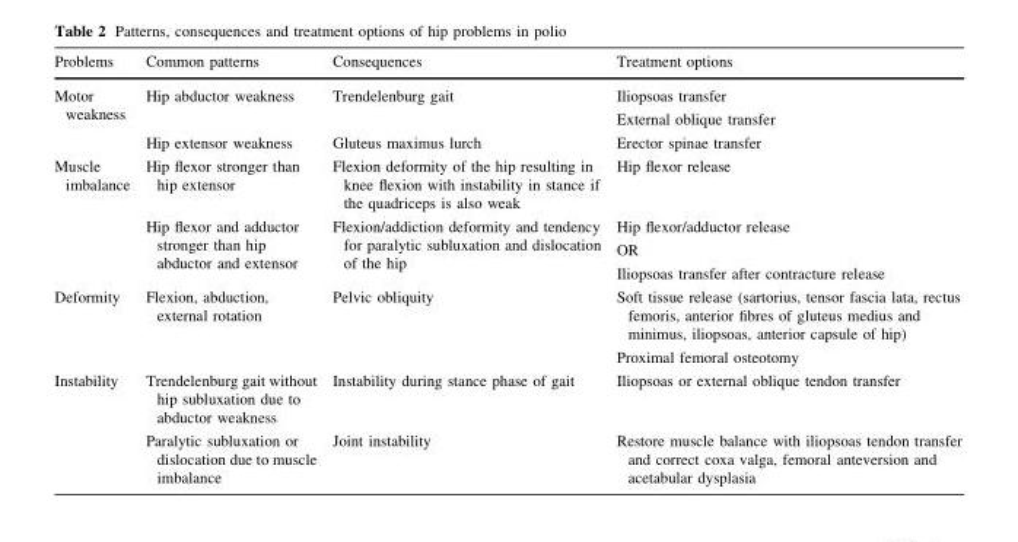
<table><thead><tr><td>Problems</td><td>Common patterns</td><td>Consequences</td><td>Treatment options</td></tr></thead><tbody><tr><td rowspan="2">Motor weakness</td><td>Hip abductor weakness</td><td>Trendelenburg gait</td><td>Iliopsoas transfer External oblique transfer</td></tr><tr><td>Hip extensor weakness</td><td>Gluteus maximus lurch</td><td>Erector spinae transfer</td></tr><tr><td rowspan="2">Muscle imbalance</td><td>Hip flexor stronger than hip extensor</td><td>Flexion deformity of the hip resulting in knee flexion with instability in stance if the quadriceps is also weak</td><td>Hip flexor release</td></tr><tr><td>Hip flexor and adductor stronger than hip abductor and extensor</td><td>Flexion/addiction deformity and tendency for paralytic subluxation and dislocation of the hip</td><td>Hip flexor/adductor release OR Iliopsoas transfer after contracture release</td></tr><tr><td>Deformity</td><td>Flexion, abduction, external rotation</td><td>Pelvic obliquity</td><td>Soft tissue release (sartorius, tensor fascia lata, rectus femoris, anterior fibres of gluteus medius and minimus, iliopsoas, anterior capsule of hip) Proximal femoral osteotomy</td></tr><tr><td rowspan="2">Instability</td><td>Trendelenburg gait without hip subluxation due to abductor weakness</td><td>Instability during stance phase of gait</td><td>Iliopsoas or external oblique tendon transfer</td></tr><tr><td>Paralytic subluxation or dislocation due to muscle imbalance</td><td>Joint instability</td><td>Restore muscle balance with iliopsoas tendon transfer and correct coxa valga, femoral anteversion and acetabular dysplasia</td></tr></tbody></table>